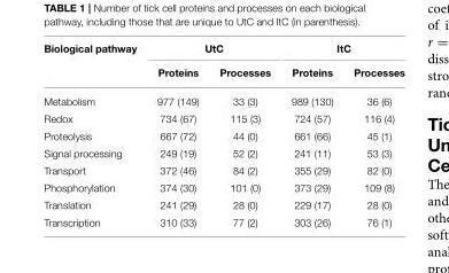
<table><thead><tr><td rowspan="2">Biological pathway</td><td colspan="2">UtC</td><td colspan="2">ItC</td></tr><tr><td>Proteins</td><td>Processes</td><td>Proteins</td><td>Processes</td></tr></thead><tbody><tr><td>Metabolism</td><td>977 (149)</td><td>33 (3)</td><td>989 (130)</td><td>36 (6)</td></tr><tr><td>Redox</td><td>734 (67)</td><td>115 (3)</td><td>724 (57)</td><td>116 (4)</td></tr><tr><td>Proteolysis</td><td>667 (72)</td><td>44 (0)</td><td>661 (66)</td><td>45 (1)</td></tr><tr><td>Signal processing</td><td>249 (19)</td><td>52 (2)</td><td>241 (11)</td><td>53 (3)</td></tr><tr><td>Transport</td><td>372 (46)</td><td>84 (2)</td><td>355 (29)</td><td>82 (0)</td></tr><tr><td>Phosphorylation</td><td>374 (30)</td><td>101 (0)</td><td>373 (29)</td><td>109 (8)</td></tr><tr><td>Translation</td><td>241 (29)</td><td>28 (0)</td><td>229 (17)</td><td>28 (0)</td></tr><tr><td>Transcription</td><td>310 (33)</td><td>77 (2)</td><td>303 (26)</td><td>76 (1)</td></tr></tbody></table>